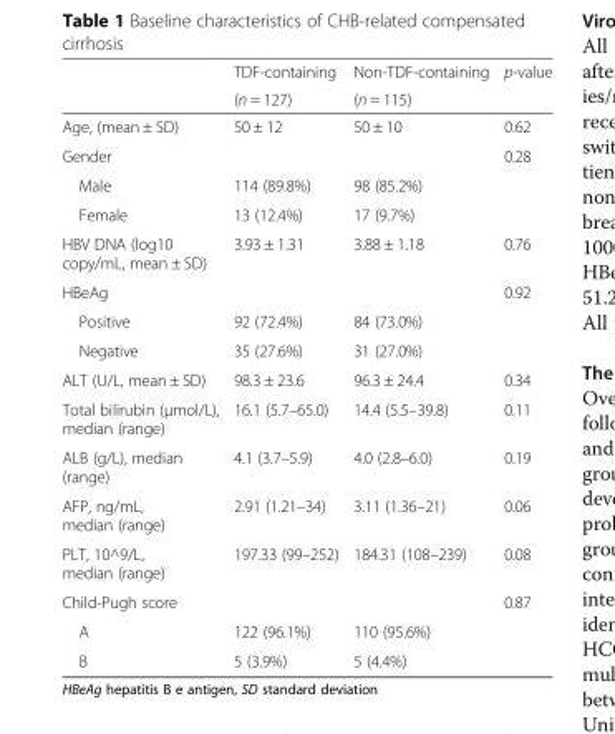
<table><thead><tr><td rowspan="2"></td><td rowspan="2">TDF-containing (n = 127)</td><td rowspan="2">Non-TDF-containing (n = 115)</td><td rowspan="2">p-value</td></tr><tr></tr></thead><tbody><tr><td>Age, (mean ± SD)</td><td>50 ± 12</td><td>50 ± 10</td><td>0.62</td></tr><tr><td>Gender</td><td></td><td></td><td>0.28</td></tr><tr><td>Male</td><td>114 (89.8%)</td><td>98 (85.2%)</td><td></td></tr><tr><td>Female</td><td>13 (12.4%)</td><td>17 (9.7%)</td><td></td></tr><tr><td>HBV DNA (log10 copy/mL, mean ± SD)</td><td>3.93 ± 1.31</td><td>3.88 ± 1.18</td><td>0.76</td></tr><tr><td>HBeAg</td><td></td><td></td><td>0.92</td></tr><tr><td>Positive</td><td>92 (72.4%)</td><td>84 (73.0%)</td><td></td></tr><tr><td>Negative</td><td>35 (27.6%)</td><td>31 (27.0%)</td><td></td></tr><tr><td>ALT (U/L, mean ± SD)</td><td>98.3 ± 23.6</td><td>96.3 ± 24.4</td><td>0.34</td></tr><tr><td>Total bilirubin (μmol/L), median (range)</td><td>16.1 (5.7–65.0)</td><td>14.4 (5.5–39.8)</td><td>0.11</td></tr><tr><td>ALB (g/L), median (range)</td><td>4.1 (3.7–5.9)</td><td>4.0 (2.8–6.0)</td><td>0.19</td></tr><tr><td>AFP, ng/mL, median (range)</td><td>2.91 (1.21–34)</td><td>3.11 (1.36–21)</td><td>0.06</td></tr><tr><td>PLT, 10^9/L, median (range)</td><td>197.33 (99–252)</td><td>184.31 (108–239)</td><td>0.08</td></tr><tr><td>Child-Pugh score</td><td></td><td></td><td>0.87</td></tr><tr><td>A</td><td>122 (96.1%)</td><td>110 (95.6%)</td><td></td></tr><tr><td>B</td><td>5 (3.9%)</td><td>5 (4.4%)</td><td></td></tr></tbody></table>